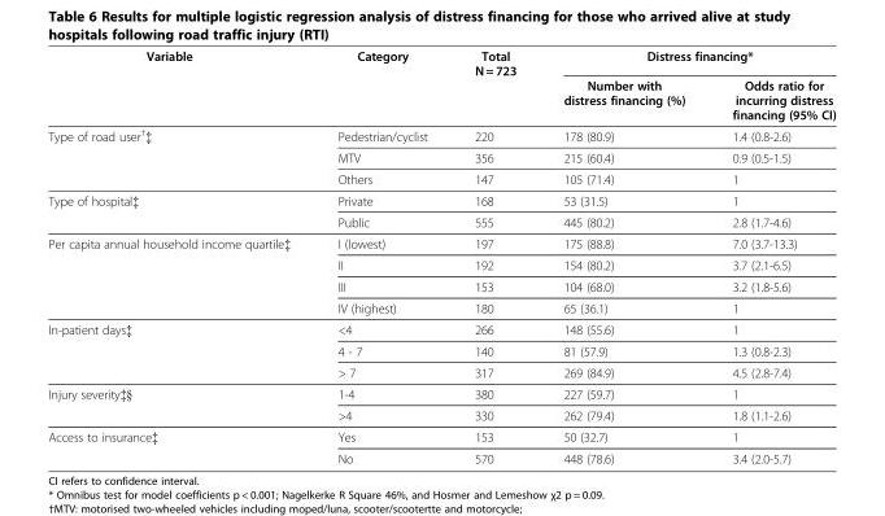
<table><thead><tr><td rowspan="2">Variable</td><td rowspan="2">Category</td><td rowspan="2">Total N = 723</td><td colspan="2">Distress financing*</td></tr><tr><td>Number with distress financing (%)</td><td>Odds ratio for incurring distress financing (95% CI)</td></tr></thead><tbody><tr><td rowspan="3">Type of road user<sup>†</sup>‡</td><td>Pedestrian/cyclist</td><td>220</td><td>178 (80.9)</td><td>1.4 (0.8-2.6)</td></tr><tr><td>MTV</td><td>356</td><td>215 (60.4)</td><td>0.9 (0.5-1.5)</td></tr><tr><td>Others</td><td>147</td><td>105 (71.4)</td><td>1</td></tr><tr><td rowspan="2">Type of hospital‡</td><td>Private</td><td>168</td><td>53 (31.5)</td><td>1</td></tr><tr><td>Public</td><td>555</td><td>445 (80.2)</td><td>2.8 (1.7-4.6)</td></tr><tr><td rowspan="4">Per capita annual household income quartile‡</td><td>I (lowest)</td><td>197</td><td>175 (88.8)</td><td>7.0 (3.7-13.3)</td></tr><tr><td>II</td><td>192</td><td>154 (80.2)</td><td>3.7 (2.1-6.5)</td></tr><tr><td>III</td><td>153</td><td>104 (68.0)</td><td>3.2 (1.8-5.6)</td></tr><tr><td>IV (highest)</td><td>180</td><td>65 (36.1)</td><td>1</td></tr><tr><td rowspan="3">In-patient days‡</td><td>&lt;4</td><td>266</td><td>148 (55.6)</td><td>1</td></tr><tr><td>4 - 7</td><td>140</td><td>81 (57.9)</td><td>1.3 (0.8-2.3)</td></tr><tr><td>&gt; 7</td><td>317</td><td>269 (84.9)</td><td>4.5 (2.8-7.4)</td></tr><tr><td rowspan="2">Injury severity‡§</td><td>1-4</td><td>380</td><td>227 (59.7)</td><td>1</td></tr><tr><td>&gt;4</td><td>330</td><td>262 (79.4)</td><td>1.8 (1.1-2.6)</td></tr><tr><td rowspan="2">Access to insurance‡</td><td>Yes</td><td>153</td><td>50 (32.7)</td><td>1</td></tr><tr><td>No</td><td>570</td><td>448 (78.6)</td><td>3.4 (2.0-5.7)</td></tr></tbody></table>